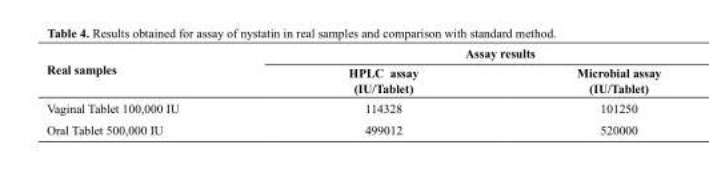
<table><tbody><tr><td rowspan="2">Real samples</td><td colspan="2">Assay results</td></tr><tr><td>HPLC assay (IU/Tablet)</td><td>Microbial assay (IU/Tablet)</td></tr><tr><td>Vaginal Tablet 100,000 IU</td><td>114328</td><td>101250</td></tr><tr><td>Oral Tablet 500,000 IU</td><td>499012</td><td>520000</td></tr></tbody></table>